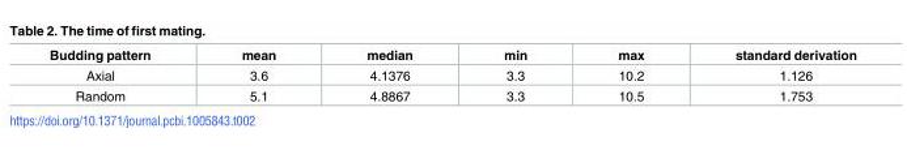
<table><thead><tr><td>Budding pattern</td><td>mean</td><td>median</td><td>min</td><td>max</td><td>standard derivation</td></tr></thead><tbody><tr><td>Axial</td><td>3.6</td><td>4.1376</td><td>3.3</td><td>10.2</td><td>1.126</td></tr><tr><td>Random</td><td>5.1</td><td>4.8867</td><td>3.3</td><td>10.5</td><td>1.753</td></tr></tbody></table>